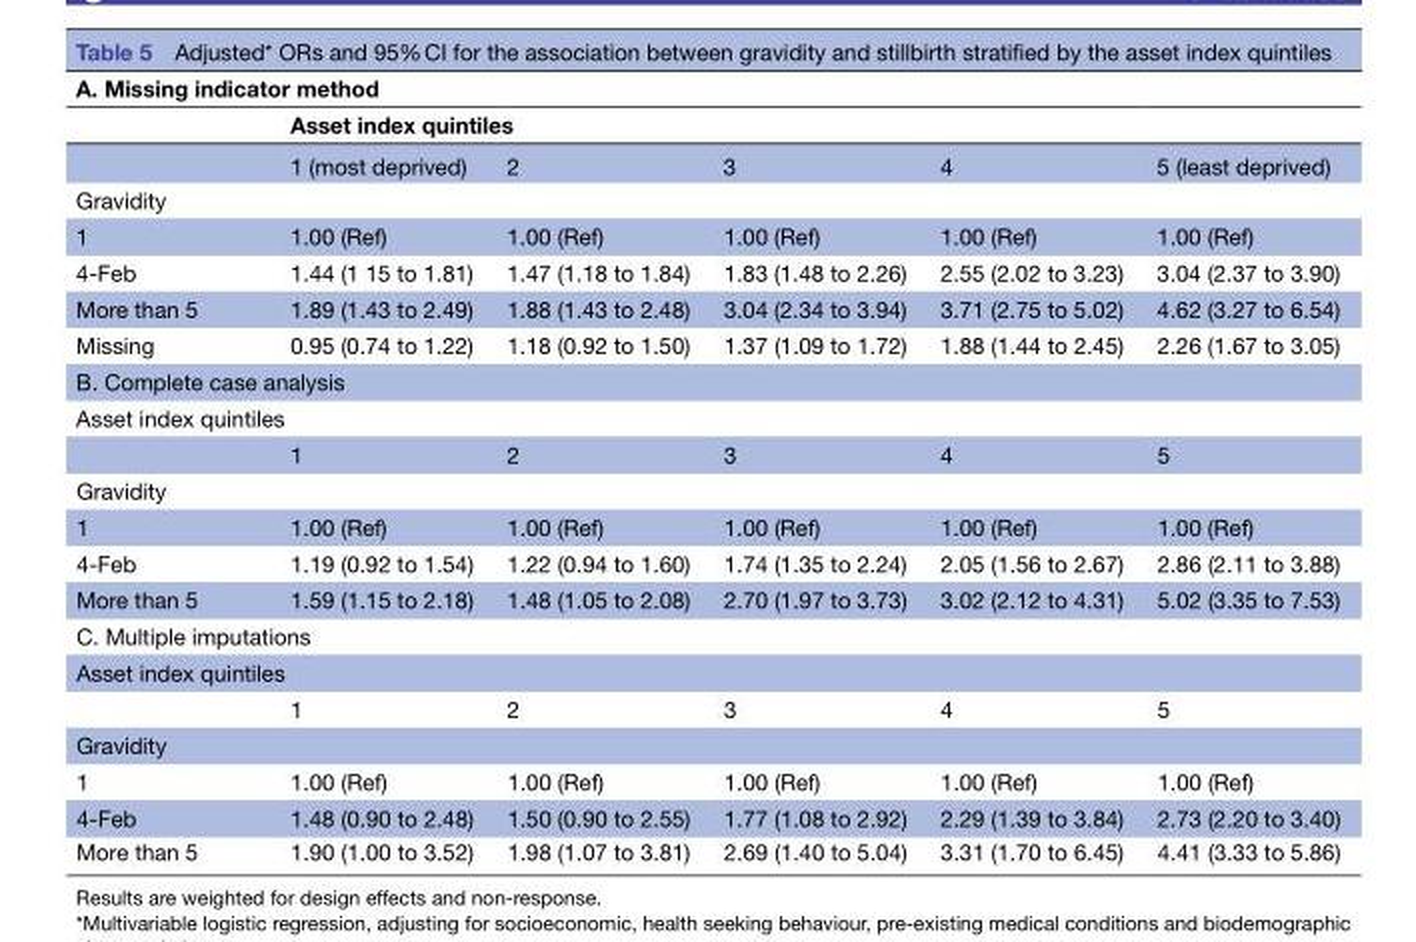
<table><thead><tr><td colspan="6">A. Missing indicator method</td></tr><tr><td rowspan="2"></td><td colspan="5">Asset index quintiles</td></tr><tr><td>1 (most deprived)</td><td>2</td><td>3</td><td>4</td><td>5 (least deprived)</td></tr></thead><tbody><tr><td colspan="6">Gravidity</td></tr><tr><td>1</td><td>1.00 (Ref)</td><td>1.00 (Ref)</td><td>1.00 (Ref)</td><td>1.00 (Ref)</td><td>1.00 (Ref)</td></tr><tr><td>4-Feb</td><td>1.44 (1 15 to 1.81)</td><td>1.47 (1.18 to 1.84)</td><td>1.83 (1.48 to 2.26)</td><td>2.55 (2.02 to 3.23)</td><td>3.04 (2.37 to 3.90)</td></tr><tr><td>More than 5</td><td>1.89 (1.43 to 2.49)</td><td>1.88 (1.43 to 2.48)</td><td>3.04 (2.34 to 3.94)</td><td>3.71 (2.75 to 5.02)</td><td>4.62 (3.27 to 6.54)</td></tr><tr><td>Missing</td><td>0.95 (0.74 to 1.22)</td><td>1.18 (0.92 to 1.50)</td><td>1.37 (1.09 to 1.72)</td><td>1.88 (1.44 to 2.45)</td><td>2.26 (1.67 to 3.05)</td></tr><tr><td colspan="6">B. Complete case analysis</td></tr><tr><td colspan="6">Asset index quintiles</td></tr><tr><td></td><td>1</td><td>2</td><td>3</td><td>4</td><td>5</td></tr><tr><td colspan="6">Gravidity</td></tr><tr><td>1</td><td>1.00 (Ref)</td><td>1.00 (Ref)</td><td>1.00 (Ref)</td><td>1.00 (Ref)</td><td>1.00 (Ref)</td></tr><tr><td>4-Feb</td><td>1.19 (0.92 to 1.54)</td><td>1.22 (0.94 to 1.60)</td><td>1.74 (1.35 to 2.24)</td><td>2.05 (1.56 to 2.67)</td><td>2.86 (2.11 to 3.88)</td></tr><tr><td>More than 5</td><td>1.59 (1.15 to 2.18)</td><td>1.48 (1.05 to 2.08)</td><td>2.70 (1.97 to 3.73)</td><td>3.02 (2.12 to 4.31)</td><td>5.02 (3.35 to 7.53)</td></tr><tr><td colspan="6">C. Multiple imputations</td></tr><tr><td colspan="6">Asset index quintiles</td></tr><tr><td></td><td>1</td><td>2</td><td>3</td><td>4</td><td>5</td></tr><tr><td colspan="6">Gravidity</td></tr><tr><td>1</td><td>1.00 (Ref)</td><td>1.00 (Ref)</td><td>1.00 (Ref)</td><td>1.00 (Ref)</td><td>1.00 (Ref)</td></tr><tr><td>4-Feb</td><td>1.48 (0.90 to 2.48)</td><td>1.50 (0.90 to 2.55)</td><td>1.77 (1.08 to 2.92)</td><td>2.29 (1.39 to 3.84)</td><td>2.73 (2.20 to 3.40)</td></tr><tr><td>More than 5</td><td>1.90 (1.00 to 3.52)</td><td>1.98 (1.07 to 3.81)</td><td>2.69 (1.40 to 5.04)</td><td>3.31 (1.70 to 6.45)</td><td>4.41 (3.33 to 5.86)</td></tr></tbody></table>